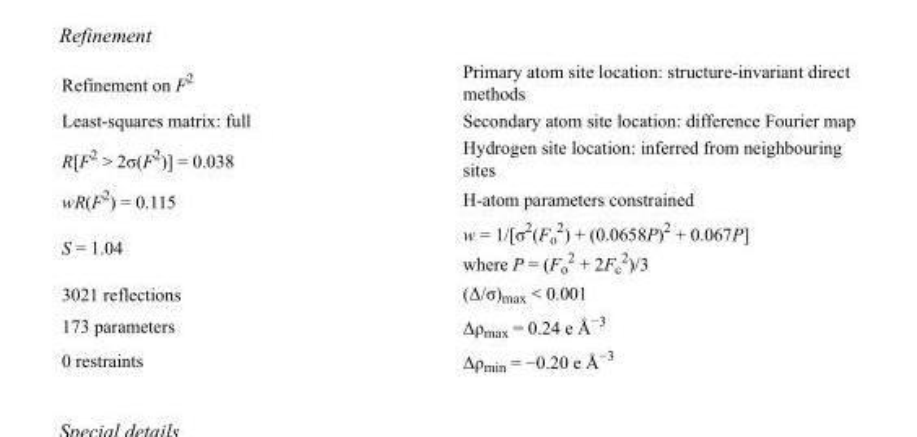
<table><tbody><tr><td>Refinement on F<sup>2</sup></td><td>Primary atom site location: structure-invariant direct methods</td></tr><tr><td>Least-squares matrix: full</td><td>Secondary atom site location: difference Fourier map</td></tr><tr><td>R[F<sup>2</sup> &gt; 2σ(F<sup>2</sup>)] = 0.038</td><td>Hydrogen site location: inferred from neighbouring sites</td></tr><tr><td>wR(F<sup>2</sup>) = 0.115</td><td>H-atom parameters constrained</td></tr><tr><td>S = 1.04</td><td>w = 1/[σ<sup>2</sup>(F<sub>o</sub> <sup>2</sup>) + (0.0658P)<sup>2</sup> + 0.067P] where P = (F<sub>o</sub> <sup>2</sup> + 2F<sub>c</sub> <sup>2</sup>)/3</td></tr><tr><td>3021 reflections</td><td>(Δ/σ)<sub>max</sub> &lt; 0.001</td></tr><tr><td>173 parameters</td><td>Δρ<sub>max</sub> = 0.24 e Å<sup>−3</sup></td></tr><tr><td>0 restraints</td><td>Δρ<sub>min</sub> = −0.20 e Å<sup>−3</sup></td></tr></tbody></table>